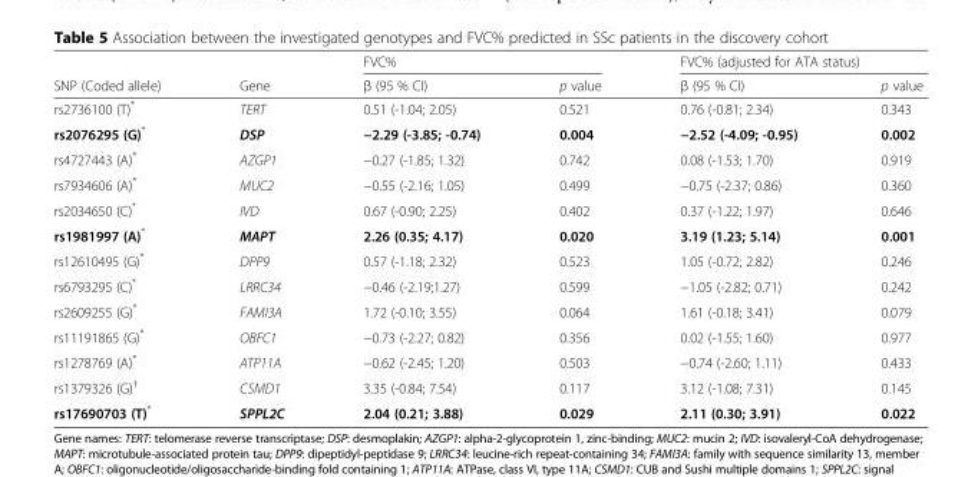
<table><thead><tr><td rowspan="2">SNP (Coded allele)</td><td rowspan="2">Gene</td><td colspan="2">FVC%</td><td colspan="2">FVC% (adjusted for ATA status)</td></tr><tr><td>β (95 % CI)</td><td>p value</td><td>β (95 % CI)</td><td>p value</td></tr></thead><tbody><tr><td>rs2736100 (T)*</td><td>TERT</td><td>0.51 (-1.04; 2.05)</td><td>0.521</td><td>0.76 (-0.81; 2.34)</td><td>0.343</td></tr><tr><td>rs2076295 (G)*</td><td>DSP</td><td>−2.29 (-3.85; -0.74)</td><td>0.004</td><td>−2.52 (-4.09; -0.95)</td><td>0.002</td></tr><tr><td>rs4727443 (A)*</td><td>AZGP1</td><td>−0.27 (-1.85; 1.32)</td><td>0.742</td><td>0.08 (-1.53; 1.70)</td><td>0.919</td></tr><tr><td>rs7934606 (A)*</td><td>MUC2</td><td>−0.55 (-2.16; 1.05)</td><td>0.499</td><td>−0.75 (-2.37; 0.86)</td><td>0.360</td></tr><tr><td>rs2034650 (C)*</td><td>IVD</td><td>0.67 (-0.90; 2.25)</td><td>0.402</td><td>0.37 (-1.22; 1.97)</td><td>0.646</td></tr><tr><td>rs1981997 (A)*</td><td>MAPT</td><td>2.26 (0.35; 4.17)</td><td>0.020</td><td>3.19 (1.23; 5.14)</td><td>0.001</td></tr><tr><td>rs12610495 (G)*</td><td>DPP9</td><td>0.57 (-1.18; 2.32)</td><td>0.523</td><td>1.05 (-0.72; 2.82)</td><td>0.246</td></tr><tr><td>rs6793295 (C)*</td><td>LRRC34</td><td>−0.46 (-2.19;1.27)</td><td>0.599</td><td>−1.05 (-2.82; 0.71)</td><td>0.242</td></tr><tr><td>rs2609255 (G)*</td><td>FAMI3A</td><td>1.72 (-0.10; 3.55)</td><td>0.064</td><td>1.61 (-0.18; 3.41)</td><td>0.079</td></tr><tr><td>rs11191865 (G)*</td><td>OBFC1</td><td>−0.73 (-2.27; 0.82)</td><td>0.356</td><td>0.02 (-1.55; 1.60)</td><td>0.977</td></tr><tr><td>rs1278769 (A)*</td><td>ATP11A</td><td>−0.62 (-2.45; 1.20)</td><td>0.503</td><td>−0.74 (-2.60; 1.11)</td><td>0.433</td></tr><tr><td>rs1379326 (G)<sup>†</sup></td><td>CSMD1</td><td>3.35 (-0.84; 7.54)</td><td>0.117</td><td>3.12 (-1.08; 7.31)</td><td>0.145</td></tr><tr><td>rs17690703 (T)*</td><td>SPPL2C</td><td>2.04 (0.21; 3.88)</td><td>0.029</td><td>2.11 (0.30; 3.91)</td><td>0.022</td></tr></tbody></table>